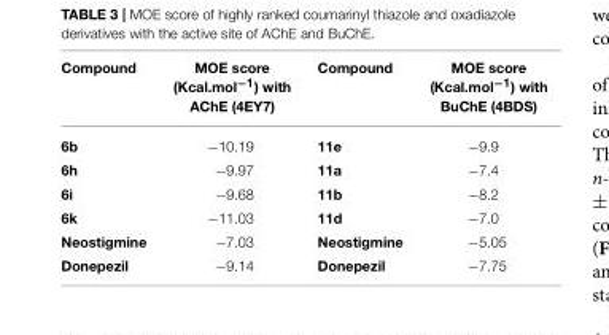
<table><thead><tr><td>Compound</td><td>MOE score (Kcal.mol<sup>−1</sup>) with AChE (4EY7)</td><td>Compound</td><td>MOE score (Kcal.mol<sup>−1</sup>) with BuChE (4BDS)</td></tr></thead><tbody><tr><td>6b</td><td>−10.19</td><td>11e</td><td>−9.9</td></tr><tr><td>6h</td><td>−9.97</td><td>11a</td><td>−7.4</td></tr><tr><td>6i</td><td>−9.68</td><td>11b</td><td>−8.2</td></tr><tr><td>6k</td><td>−11.03</td><td>11d</td><td>−7.0</td></tr><tr><td>Neostigmine</td><td>−7.03</td><td>Neostigmine</td><td>−5.05</td></tr><tr><td>Donepezil</td><td>−9.14</td><td>Donepezil</td><td>−7.75</td></tr></tbody></table>